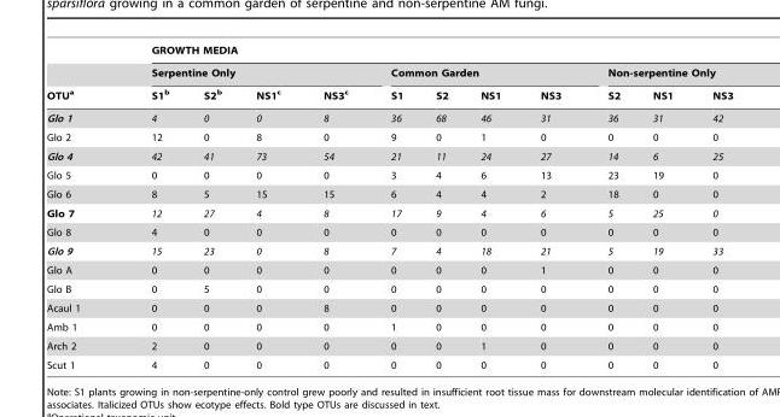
<table><thead><tr><td rowspan="3">OTU<sup>a</sup></td><td colspan="11">GROWTH MEDIA</td></tr><tr><td colspan="4">Serpentine Only</td><td colspan="4">Common Garden</td><td colspan="3">Non-serpentine Only</td></tr><tr><td>S1<sup>b</sup></td><td>S2<sup>b</sup></td><td>NS1<sup>c</sup></td><td>NS3<sup>c</sup></td><td>S1</td><td>S2</td><td>NS1</td><td>NS3</td><td>S2</td><td>NS1</td><td>NS3</td></tr></thead><tbody><tr><td>Glo 1</td><td>4</td><td>0</td><td>0</td><td>8</td><td>36</td><td>68</td><td>46</td><td>31</td><td>36</td><td>31</td><td>42</td></tr><tr><td>Glo 2</td><td>12</td><td>0</td><td>8</td><td>0</td><td>9</td><td>0</td><td>1</td><td>0</td><td>0</td><td>0</td><td>0</td></tr><tr><td>Glo 4</td><td>42</td><td>41</td><td>73</td><td>54</td><td>21</td><td>11</td><td>24</td><td>27</td><td>14</td><td>6</td><td>25</td></tr><tr><td>Glo 5</td><td>0</td><td>0</td><td>0</td><td>0</td><td>3</td><td>4</td><td>6</td><td>13</td><td>23</td><td>19</td><td>0</td></tr><tr><td>Glo 6</td><td>8</td><td>5</td><td>15</td><td>15</td><td>6</td><td>4</td><td>4</td><td>2</td><td>18</td><td>0</td><td>0</td></tr><tr><td>Glo 7</td><td>12</td><td>27</td><td>4</td><td>8</td><td>17</td><td>9</td><td>4</td><td>6</td><td>5</td><td>25</td><td>0</td></tr><tr><td>Glo 8</td><td>4</td><td>0</td><td>0</td><td>0</td><td>0</td><td>0</td><td>0</td><td>0</td><td>0</td><td>0</td><td>0</td></tr><tr><td>Glo 9</td><td>15</td><td>23</td><td>0</td><td>8</td><td>7</td><td>4</td><td>18</td><td>21</td><td>5</td><td>19</td><td>33</td></tr><tr><td>Glo A</td><td>0</td><td>0</td><td>0</td><td>0</td><td>0</td><td>0</td><td>0</td><td>1</td><td>0</td><td>0</td><td>0</td></tr><tr><td>Glo B</td><td>0</td><td>5</td><td>0</td><td>0</td><td>0</td><td>0</td><td>0</td><td>0</td><td>0</td><td>0</td><td>0</td></tr><tr><td>Acaul 1</td><td>0</td><td>0</td><td>0</td><td>8</td><td>0</td><td>0</td><td>0</td><td>0</td><td>0</td><td>0</td><td>0</td></tr><tr><td>Amb 1</td><td>0</td><td>0</td><td>0</td><td>0</td><td>1</td><td>0</td><td>0</td><td>0</td><td>0</td><td>0</td><td>0</td></tr><tr><td>Arch 2</td><td>2</td><td>0</td><td>0</td><td>0</td><td>0</td><td>0</td><td>1</td><td>0</td><td>0</td><td>0</td><td>0</td></tr><tr><td>Scut 1</td><td>4</td><td>0</td><td>0</td><td>0</td><td>0</td><td>0</td><td>0</td><td>0</td><td>0</td><td>0</td><td>0</td></tr></tbody></table>